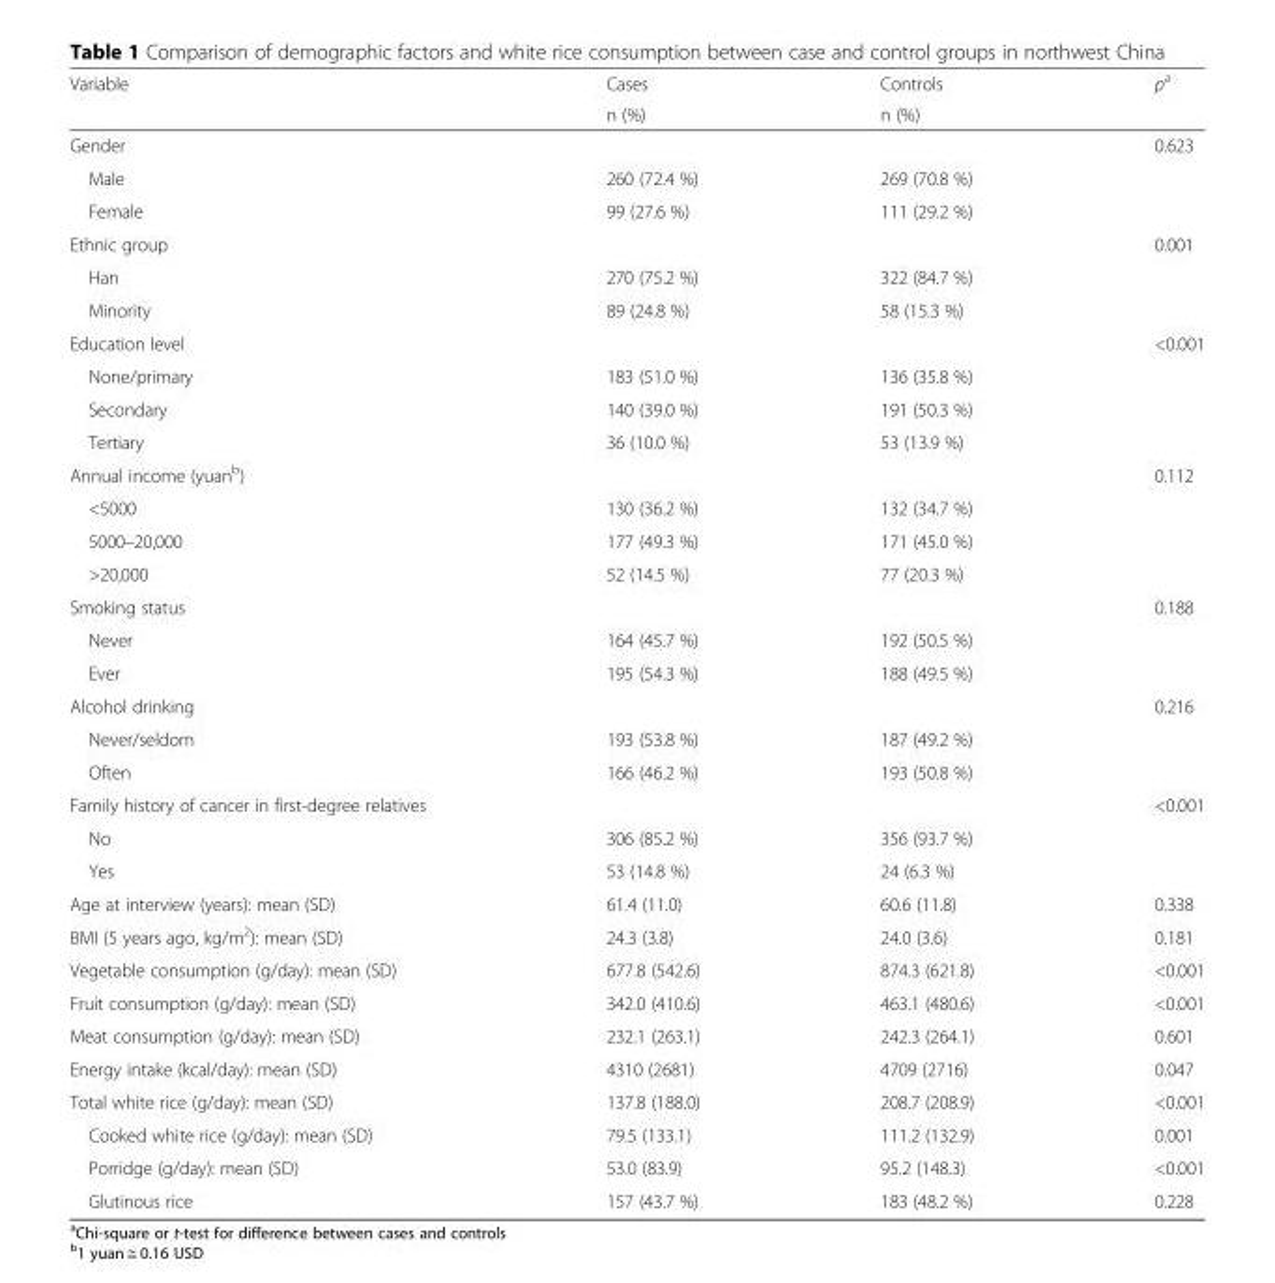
<table><thead><tr><td rowspan="2">Variable</td><td rowspan="2">Cases n (%)</td><td rowspan="2">Controls n (%)</td><td rowspan="2">p<sup>a</sup></td></tr><tr></tr></thead><tbody><tr><td>Gender</td><td></td><td></td><td>0.623</td></tr><tr><td>Male</td><td>260 (72.4 %)</td><td>269 (70.8 %)</td><td></td></tr><tr><td>Female</td><td>99 (27.6 %)</td><td>111 (29.2 %)</td><td></td></tr><tr><td>Ethnic group</td><td></td><td></td><td>0.001</td></tr><tr><td>Han</td><td>270 (75.2 %)</td><td>322 (84.7 %)</td><td></td></tr><tr><td>Minority</td><td>89 (24.8 %)</td><td>58 (15.3 %)</td><td></td></tr><tr><td>Education level</td><td></td><td></td><td>&lt;0.001</td></tr><tr><td>None/primary</td><td>183 (51.0 %)</td><td>136 (35.8 %)</td><td></td></tr><tr><td>Secondary</td><td>140 (39.0 %)</td><td>191 (50.3 %)</td><td></td></tr><tr><td>Tertiary</td><td>36 (10.0 %)</td><td>53 (13.9 %)</td><td></td></tr><tr><td>Annual income (yuan<sup>b</sup>)</td><td></td><td></td><td>0.112</td></tr><tr><td>&lt;5000</td><td>130 (36.2 %)</td><td>132 (34.7 %)</td><td></td></tr><tr><td>5000–20,000</td><td>177 (49.3 %)</td><td>171 (45.0 %)</td><td></td></tr><tr><td>&gt;20,000</td><td>52 (14.5 %)</td><td>77 (20.3 %)</td><td></td></tr><tr><td>Smoking status</td><td></td><td></td><td>0.188</td></tr><tr><td>Never</td><td>164 (45.7 %)</td><td>192 (50.5 %)</td><td></td></tr><tr><td>Ever</td><td>195 (54.3 %)</td><td>188 (49.5 %)</td><td></td></tr><tr><td>Alcohol drinking</td><td></td><td></td><td>0.216</td></tr><tr><td>Never/seldom</td><td>193 (53.8 %)</td><td>187 (49.2 %)</td><td></td></tr><tr><td>Often</td><td>166 (46.2 %)</td><td>193 (50.8 %)</td><td></td></tr><tr><td>Family history of cancer in first-degree relatives</td><td></td><td></td><td>&lt;0.001</td></tr><tr><td>No</td><td>306 (85.2 %)</td><td>356 (93.7 %)</td><td></td></tr><tr><td>Yes</td><td>53 (14.8 %)</td><td>24 (6.3 %)</td><td></td></tr><tr><td>Age at interview (years): mean (SD)</td><td>61.4 (11.0)</td><td>60.6 (11.8)</td><td>0.338</td></tr><tr><td>BMI (5 years ago, kg/m<sup>2</sup>): mean (SD)</td><td>24.3 (3.8)</td><td>24.0 (3.6)</td><td>0.181</td></tr><tr><td>Vegetable consumption (g/day): mean (SD)</td><td>677.8 (542.6)</td><td>874.3 (621.8)</td><td>&lt;0.001</td></tr><tr><td>Fruit consumption (g/day): mean (SD)</td><td>342.0 (410.6)</td><td>463.1 (480.6)</td><td>&lt;0.001</td></tr><tr><td>Meat consumption (g/day): mean (SD)</td><td>232.1 (263.1)</td><td>242.3 (264.1)</td><td>0.601</td></tr><tr><td>Energy intake (kcal/day): mean (SD)</td><td>4310 (2681)</td><td>4709 (2716)</td><td>0.047</td></tr><tr><td>Total white rice (g/day): mean (SD)</td><td>137.8 (188.0)</td><td>208.7 (208.9)</td><td>&lt;0.001</td></tr><tr><td>Cooked white rice (g/day): mean (SD)</td><td>79.5 (133.1)</td><td>111.2 (132.9)</td><td>0.001</td></tr><tr><td>Porridge (g/day): mean (SD)</td><td>53.0 (83.9)</td><td>95.2 (148.3)</td><td>&lt;0.001</td></tr><tr><td>Glutinous rice</td><td>157 (43.7 %)</td><td>183 (48.2 %)</td><td>0.228</td></tr></tbody></table>